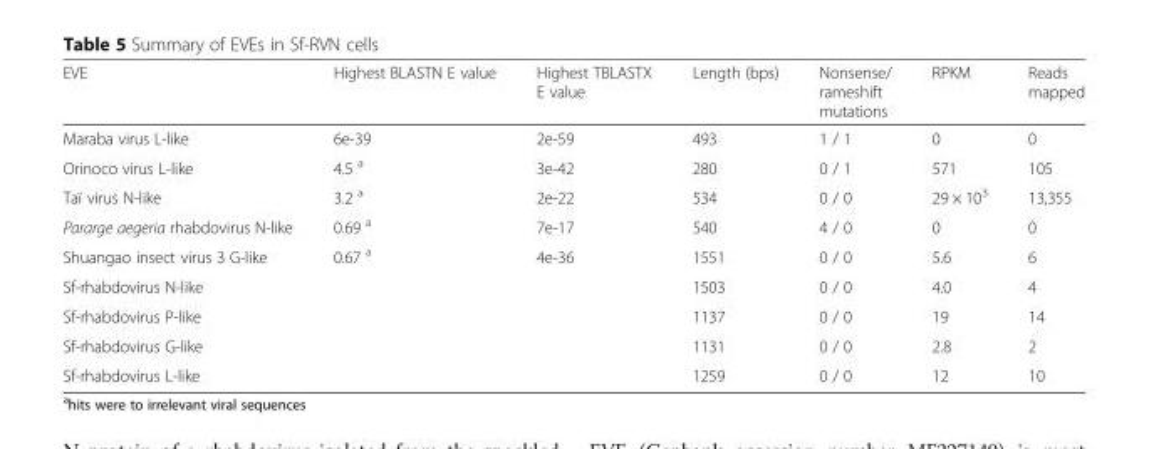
<table><thead><tr><td>EVE</td><td>Highest BLASTN E value</td><td>Highest TBLASTX E value</td><td>Length (bps)</td><td>Nonsense/ rameshift mutations</td><td>RPKM</td><td>Reads mapped</td></tr></thead><tbody><tr><td>Maraba virus L-like</td><td>6e-39</td><td>2e-59</td><td>493</td><td>1 / 1</td><td>0</td><td>0</td></tr><tr><td>Orinoco virus L-like</td><td>4.5 <sup>a</sup></td><td>3e-42</td><td>280</td><td>0 / 1</td><td>571</td><td>105</td></tr><tr><td>Taï virus N-like</td><td>3.2 <sup>a</sup></td><td>2e-22</td><td>534</td><td>0 / 0</td><td>29 × 10<sup>3</sup></td><td>13,355</td></tr><tr><td>Pararge aegeria rhabdovirus N-like</td><td>0.69 <sup>a</sup></td><td>7e-17</td><td>540</td><td>4 / 0</td><td>0</td><td>0</td></tr><tr><td>Shuangao insect virus 3 G-like</td><td>0.67 <sup>a</sup></td><td>4e-36</td><td>1551</td><td>0 / 0</td><td>5.6</td><td>6</td></tr><tr><td>Sf-rhabdovirus N-like</td><td></td><td></td><td>1503</td><td>0 / 0</td><td>4.0</td><td>4</td></tr><tr><td>Sf-rhabdovirus P-like</td><td></td><td></td><td>1137</td><td>0 / 0</td><td>19</td><td>14</td></tr><tr><td>Sf-rhabdovirus G-like</td><td></td><td></td><td>1131</td><td>0 / 0</td><td>2.8</td><td>2</td></tr><tr><td>Sf-rhabdovirus L-like</td><td></td><td></td><td>1259</td><td>0 / 0</td><td>12</td><td>10</td></tr></tbody></table>